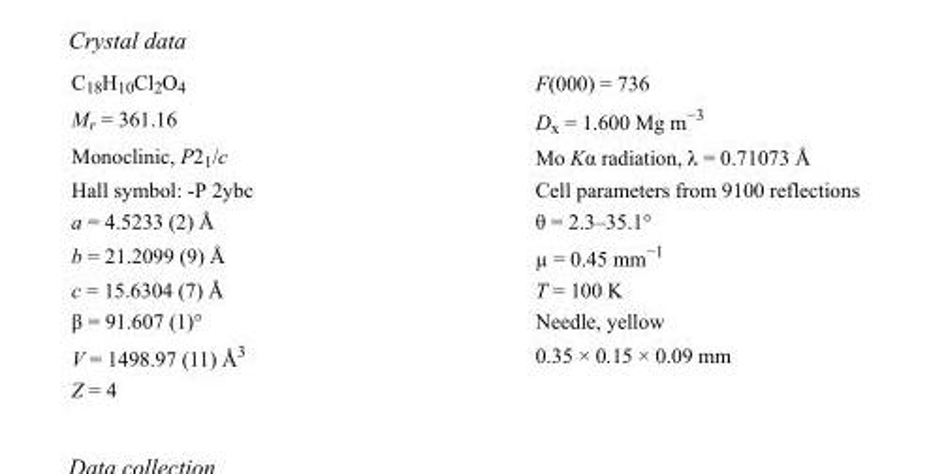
<table><tbody><tr><td>C<sub>18</sub>H<sub>10</sub>Cl<sub>2</sub>O<sub>4</sub></td><td>F(000) = 736</td></tr><tr><td>M<sub>r</sub> = 361.16</td><td>D<sub>x</sub> = 1.600 Mg m<sup>−3</sup></td></tr><tr><td>Monoclinic, P2<sub>1</sub>/c</td><td>Mo Kα radiation, λ = 0.71073 Å</td></tr><tr><td>Hall symbol: -P 2ybc</td><td>Cell parameters from 9100 reflections</td></tr><tr><td>a = 4.5233 (2) Å</td><td>θ = 2.3–35.1°</td></tr><tr><td>b = 21.2099 (9) Å</td><td>µ = 0.45 mm<sup>−1</sup></td></tr><tr><td>c = 15.6304 (7) Å</td><td>T = 100 K</td></tr><tr><td>β = 91.607 (1)°</td><td>Needle, yellow</td></tr><tr><td>V = 1498.97 (11) Å<sup>3</sup></td><td>0.35 × 0.15 × 0.09 mm</td></tr><tr><td>Z = 4</td><td></td></tr></tbody></table>